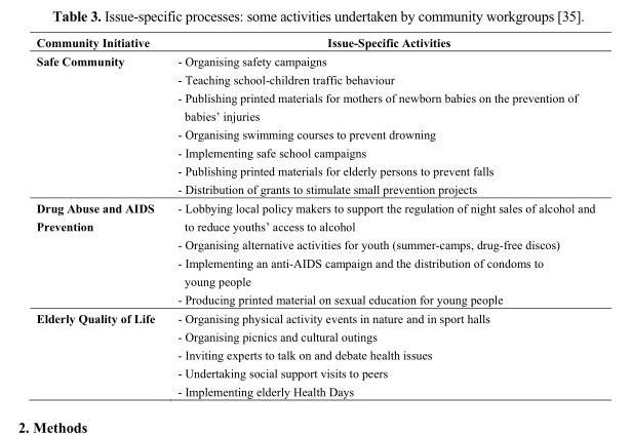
<table><thead><tr><td>Community Initiative</td><td>Issue-Specific Activities</td></tr></thead><tbody><tr><td>Safe Community</td><td>- Organising safety campaigns - Teaching school-children traffic behaviour - Publishing printed materials for mothers of newborn babies on the prevention of babies’ injuries - Organising swimming courses to prevent drowning - Implementing safe school campaigns - Publishing printed materials for elderly persons to prevent falls - Distribution of grants to stimulate small prevention projects</td></tr><tr><td>Drug Abuse and AIDS Prevention</td><td>- Lobbying local policy makers to support the regulation of night sales of alcohol and to reduce youths’ access to alcohol - Organising alternative activities for youth (summer-camps, drug-free discos) - Implementing an anti-AIDS campaign and the distribution of condoms to young people - Producing printed material on sexual education for young people</td></tr><tr><td>Elderly Quality of Life</td><td>- Organising physical activity events in nature and in sport halls - Organising picnics and cultural outings - Inviting experts to talk on and debate health issues - Undertaking social support visits to peers - Implementing elderly Health Days</td></tr></tbody></table>